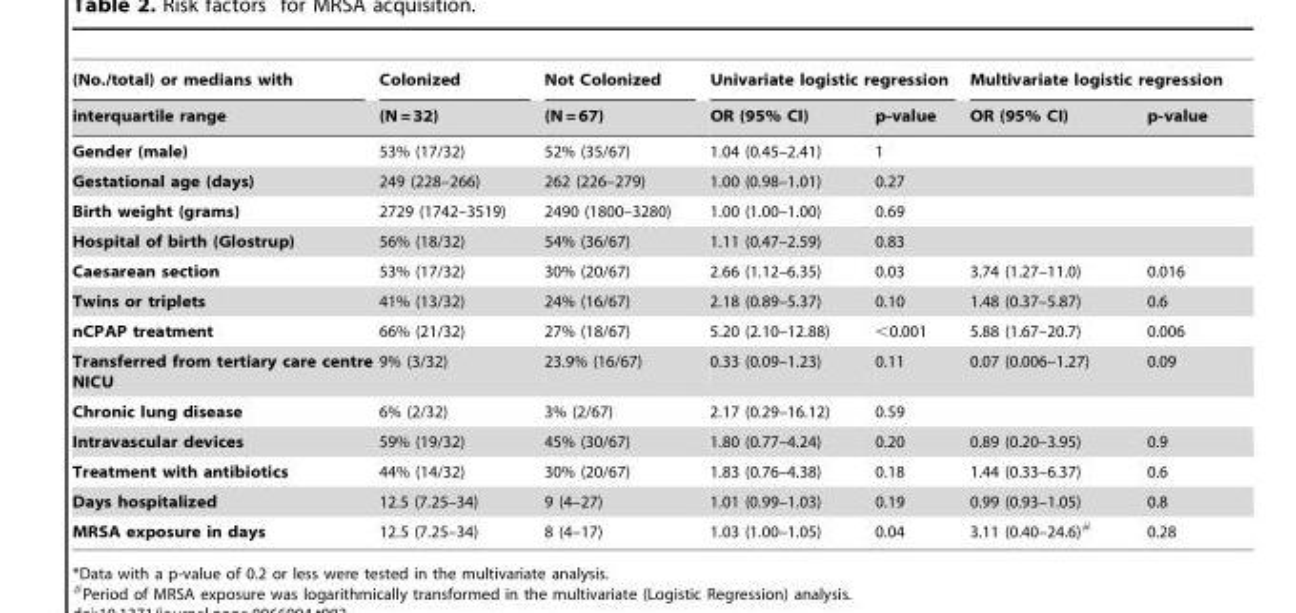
<table><thead><tr><td rowspan="2">(No./total) or medians with interquartile range</td><td rowspan="2">Colonized (N = 32)</td><td rowspan="2">Not Colonized (N = 67)</td><td colspan="2">Univariate logistic regression</td><td colspan="2">Multivariate logistic regression</td></tr><tr><td>OR (95% CI)</td><td>p-value</td><td>OR (95% CI)</td><td>p-value</td></tr></thead><tbody><tr><td>Gender (male)</td><td>53% (17/32)</td><td>52% (35/67)</td><td>1.04 (0.45–2.41)</td><td>1</td><td></td><td></td></tr><tr><td>Gestational age (days)</td><td>249 (228–266)</td><td>262 (226–279)</td><td>1.00 (0.98–1.01)</td><td>0.27</td><td></td><td></td></tr><tr><td>Birth weight (grams)</td><td>2729 (1742–3519)</td><td>2490 (1800–3280)</td><td>1.00 (1.00–1.00)</td><td>0.69</td><td></td><td></td></tr><tr><td>Hospital of birth (Glostrup)</td><td>56% (18/32)</td><td>54% (36/67)</td><td>1.11 (0.47–2.59)</td><td>0.83</td><td></td><td></td></tr><tr><td>Caesarean section</td><td>53% (17/32)</td><td>30% (20/67)</td><td>2.66 (1.12–6.35)</td><td>0.03</td><td>3.74 (1.27–11.0)</td><td>0.016</td></tr><tr><td>Twins or triplets</td><td>41% (13/32)</td><td>24% (16/67)</td><td>2.18 (0.89–5.37)</td><td>0.10</td><td>1.48 (0.37–5.87)</td><td>0.6</td></tr><tr><td>nCPAP treatment</td><td>66% (21/32)</td><td>27% (18/67)</td><td>5.20 (2.10–12.88)</td><td>&lt;0.001</td><td>5.88 (1.67–20.7)</td><td>0.006</td></tr><tr><td>Transferred from tertiary care centre NICU</td><td>9% (3/32)</td><td>23.9% (16/67)</td><td>0.33 (0.09–1.23)</td><td>0.11</td><td>0.07 (0.006–1.27)</td><td>0.09</td></tr><tr><td>Chronic lung disease</td><td>6% (2/32)</td><td>3% (2/67)</td><td>2.17 (0.29–16.12)</td><td>0.59</td><td></td><td></td></tr><tr><td>Intravascular devices</td><td>59% (19/32)</td><td>45% (30/67)</td><td>1.80 (0.77–4.24)</td><td>0.20</td><td>0.89 (0.20–3.95)</td><td>0.9</td></tr><tr><td>Treatment with antibiotics</td><td>44% (14/32)</td><td>30% (20/67)</td><td>1.83 (0.76–4.38)</td><td>0.18</td><td>1.44 (0.33–6.37)</td><td>0.6</td></tr><tr><td>Days hospitalized</td><td>12.5 (7.25–34)</td><td>9 (4–27)</td><td>1.01 (0.99–1.03)</td><td>0.19</td><td>0.99 (0.93–1.05)</td><td>0.8</td></tr><tr><td>MRSA exposure in days</td><td>12.5 (7.25–34)</td><td>8 (4–17)</td><td>1.03 (1.00–1.05)</td><td>0.04</td><td>3.11 (0.40–24.6)#</td><td>0.28</td></tr></tbody></table>